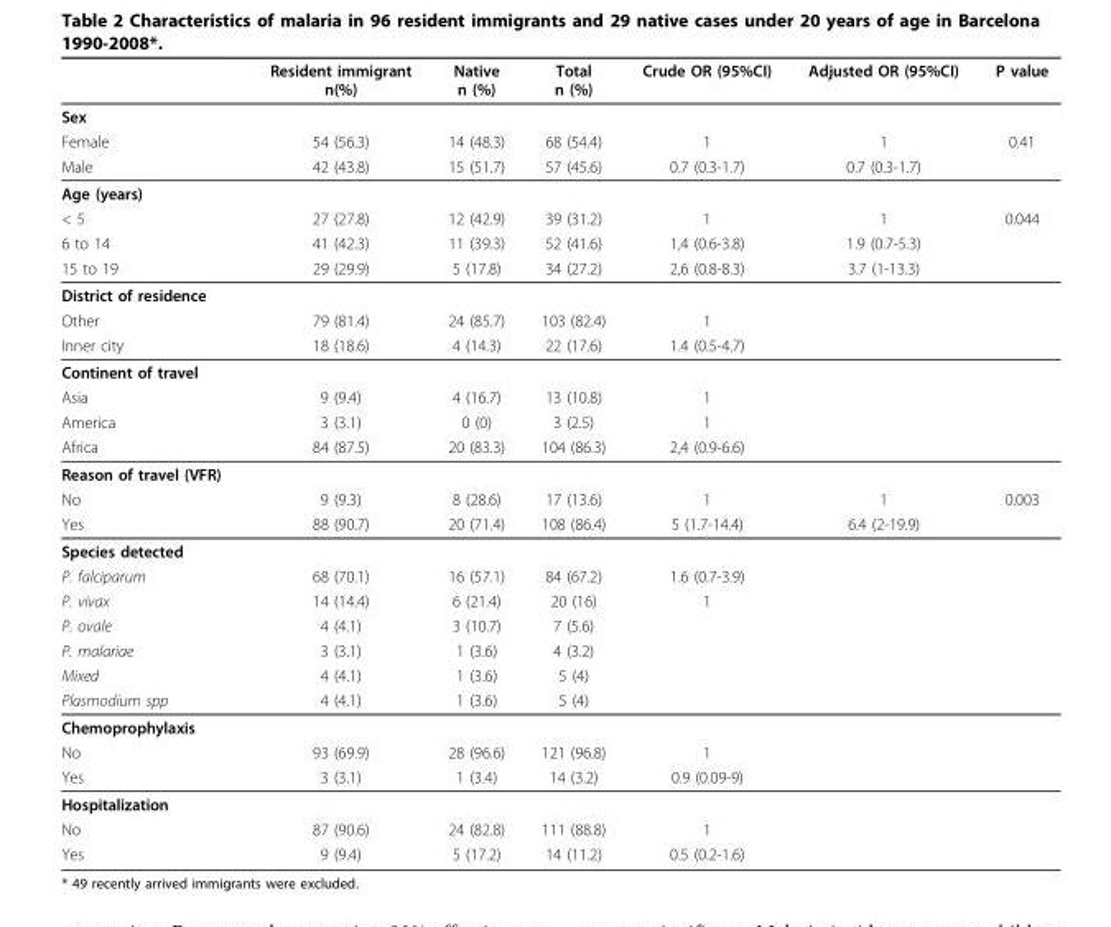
<table><thead><tr><td></td><td>Resident immigrant n(%)</td><td>Native n (%)</td><td>Total n (%)</td><td>Crude OR (95%CI)</td><td>Adjusted OR (95%CI)</td><td>P value</td></tr></thead><tbody><tr><td colspan="7">Sex</td></tr><tr><td>Female</td><td>54 (56.3)</td><td>14 (48.3)</td><td>68 (54.4)</td><td>1</td><td>1</td><td>0.41</td></tr><tr><td>Male</td><td>42 (43.8)</td><td>15 (51.7)</td><td>57 (45.6)</td><td>0.7 (0.3-1.7)</td><td>0.7 (0.3-1.7)</td><td></td></tr><tr><td colspan="7">Age (years)</td></tr><tr><td>&lt; 5</td><td>27 (27.8)</td><td>12 (42.9)</td><td>39 (31.2)</td><td>1</td><td>1</td><td>0.044</td></tr><tr><td>6 to 14</td><td>41 (42.3)</td><td>11 (39.3)</td><td>52 (41.6)</td><td>1,4 (0.6-3.8)</td><td>1.9 (0.7-5.3)</td><td></td></tr><tr><td>15 to 19</td><td>29 (29.9)</td><td>5 (17.8)</td><td>34 (27.2)</td><td>2,6 (0.8-8.3)</td><td>3.7 (1-13.3)</td><td></td></tr><tr><td colspan="7">District of residence</td></tr><tr><td>Other</td><td>79 (81.4)</td><td>24 (85.7)</td><td>103 (82.4)</td><td>1</td><td></td><td></td></tr><tr><td>Inner city</td><td>18 (18.6)</td><td>4 (14.3)</td><td>22 (17.6)</td><td>1.4 (0.5-4.7)</td><td></td><td></td></tr><tr><td colspan="7">Continent of travel</td></tr><tr><td>Asia</td><td>9 (9.4)</td><td>4 (16.7)</td><td>13 (10.8)</td><td>1</td><td></td><td></td></tr><tr><td>America</td><td>3 (3.1)</td><td>0 (0)</td><td>3 (2.5)</td><td>1</td><td></td><td></td></tr><tr><td>Africa</td><td>84 (87.5)</td><td>20 (83.3)</td><td>104 (86.3)</td><td>2,4 (0.9-6.6)</td><td></td><td></td></tr><tr><td colspan="7">Reason of travel (VFR)</td></tr><tr><td>No</td><td>9 (9.3)</td><td>8 (28.6)</td><td>17 (13.6)</td><td>1</td><td>1</td><td>0.003</td></tr><tr><td>Yes</td><td>88 (90.7)</td><td>20 (71.4)</td><td>108 (86.4)</td><td>5 (1.7-14.4)</td><td>6.4 (2-19.9)</td><td></td></tr><tr><td colspan="7">Species detected</td></tr><tr><td>P. falciparum</td><td>68 (70.1)</td><td>16 (57.1)</td><td>84 (67.2)</td><td>1.6 (0.7-3.9)</td><td></td><td></td></tr><tr><td>P. vivax</td><td>14 (14.4)</td><td>6 (21.4)</td><td>20 (16)</td><td>1</td><td></td><td></td></tr><tr><td>P. ovale</td><td>4 (4.1)</td><td>3 (10.7)</td><td>7 (5.6)</td><td></td><td></td><td></td></tr><tr><td>P. malariae</td><td>3 (3.1)</td><td>1 (3.6)</td><td>4 (3.2)</td><td></td><td></td><td></td></tr><tr><td>Mixed</td><td>4 (4.1)</td><td>1 (3.6)</td><td>5 (4)</td><td></td><td></td><td></td></tr><tr><td>Plasmodium spp</td><td>4 (4.1)</td><td>1 (3.6)</td><td>5 (4)</td><td></td><td></td><td></td></tr><tr><td colspan="7">Chemoprophylaxis</td></tr><tr><td>No</td><td>93 (69.9)</td><td>28 (96.6)</td><td>121 (96.8)</td><td>1</td><td></td><td></td></tr><tr><td>Yes</td><td>3 (3.1)</td><td>1 (3.4)</td><td>14 (3.2)</td><td>0.9 (0.09-9)</td><td></td><td></td></tr><tr><td colspan="7">Hospitalization</td></tr><tr><td>No</td><td>87 (90.6)</td><td>24 (82.8)</td><td>111 (88.8)</td><td>1</td><td></td><td></td></tr><tr><td>Yes</td><td>9 (9.4)</td><td>5 (17.2)</td><td>14 (11.2)</td><td>0.5 (0.2-1.6)</td><td></td><td></td></tr></tbody></table>